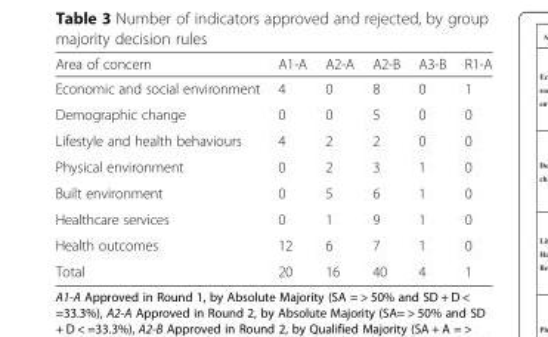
<table><thead><tr><td>Area of concern</td><td>A1-A</td><td>A2-A</td><td>A2-B</td><td>A3-B</td><td>R1-A</td></tr></thead><tbody><tr><td>Economic and social environment</td><td>4</td><td>0</td><td>8</td><td>0</td><td>1</td></tr><tr><td>Demographic change</td><td>0</td><td>0</td><td>5</td><td>0</td><td>0</td></tr><tr><td>Lifestyle and health behaviours</td><td>4</td><td>2</td><td>2</td><td>0</td><td>0</td></tr><tr><td>Physical environment</td><td>0</td><td>2</td><td>3</td><td>1</td><td>0</td></tr><tr><td>Built environment</td><td>0</td><td>5</td><td>6</td><td>1</td><td>0</td></tr><tr><td>Healthcare services</td><td>0</td><td>1</td><td>9</td><td>1</td><td>0</td></tr><tr><td>Health outcomes</td><td>12</td><td>6</td><td>7</td><td>1</td><td>0</td></tr><tr><td>Total</td><td>20</td><td>16</td><td>40</td><td>4</td><td>1</td></tr></tbody></table>